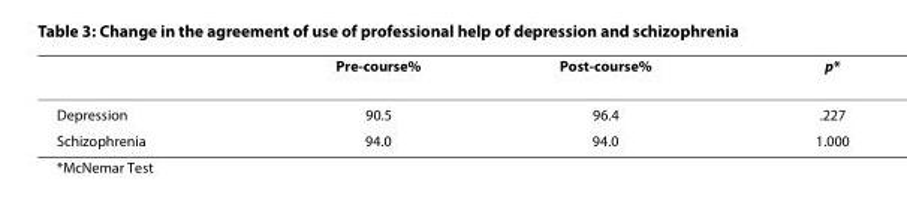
<table><thead><tr><td></td><td>Pre-course%</td><td>Post-course%</td><td>p*</td></tr></thead><tbody><tr><td>Depression</td><td>90.5</td><td>96.4</td><td>.227</td></tr><tr><td>Schizophrenia</td><td>94.0</td><td>94.0</td><td>1.000</td></tr></tbody></table>